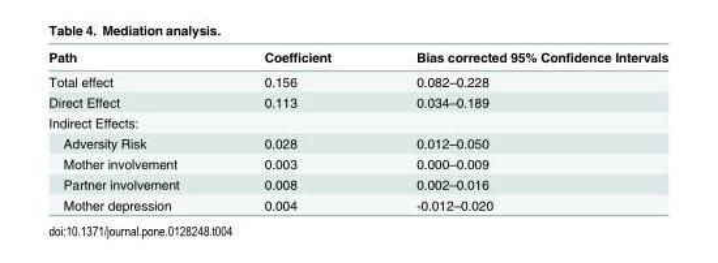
<table><thead><tr><td>Path</td><td>Coefficient</td><td>Bias corrected 95% Confidence Intervals</td></tr></thead><tbody><tr><td>Total effect</td><td>0.156</td><td>0.082–0.228</td></tr><tr><td>Direct Effect</td><td>0.113</td><td>0.034–0.189</td></tr><tr><td colspan="3">Indirect Effects:</td></tr><tr><td>Adversity Risk</td><td>0.028</td><td>0.012–0.050</td></tr><tr><td>Mother involvement</td><td>0.003</td><td>0.000–0.009</td></tr><tr><td>Partner involvement</td><td>0.008</td><td>0.002–0.016</td></tr><tr><td>Mother depression</td><td>0.004</td><td>-0.012–0.020</td></tr></tbody></table>